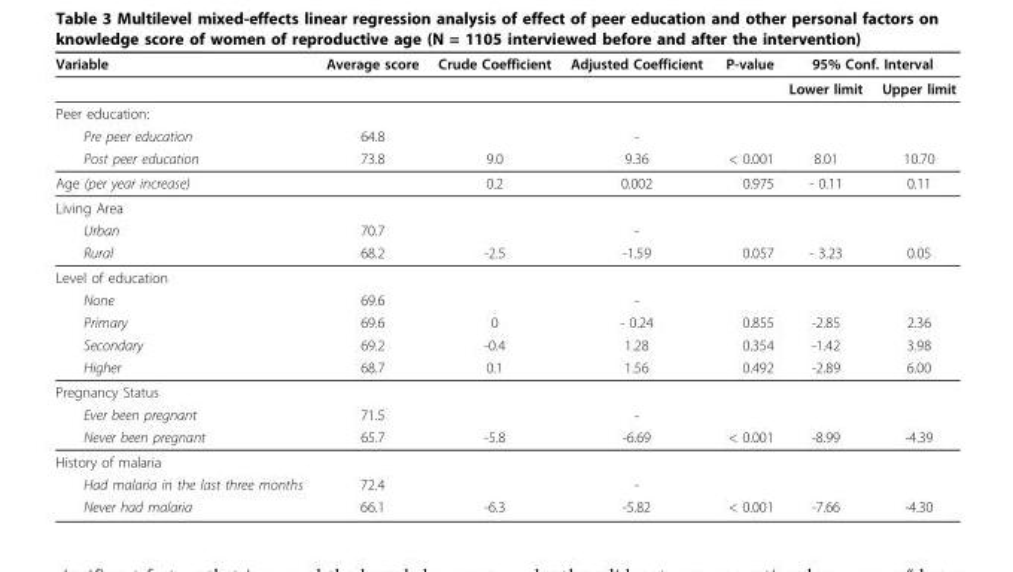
<table><thead><tr><td rowspan="2">Variable</td><td rowspan="2">Average score</td><td rowspan="2">Crude Coefficient</td><td rowspan="2">Adjusted Coefficient</td><td rowspan="2">P-value</td><td colspan="2">95% Conf. Interval</td></tr><tr><td>Lower limit</td><td>Upper limit</td></tr></thead><tbody><tr><td colspan="7">Peer education:</td></tr><tr><td>Pre peer education</td><td>64.8</td><td></td><td>-</td><td></td><td></td><td></td></tr><tr><td>Post peer education</td><td>73.8</td><td>9.0</td><td>9.36</td><td>&lt; 0.001</td><td>8.01</td><td>10.70</td></tr><tr><td>Age (per year increase)</td><td></td><td>0.2</td><td>0.002</td><td>0.975</td><td>- 0.11</td><td>0.11</td></tr><tr><td colspan="7">Living Area</td></tr><tr><td>Urban</td><td>70.7</td><td></td><td>-</td><td></td><td></td><td></td></tr><tr><td>Rural</td><td>68.2</td><td>-2.5</td><td>-1.59</td><td>0.057</td><td>- 3.23</td><td>0.05</td></tr><tr><td colspan="7">Level of education</td></tr><tr><td>None</td><td>69.6</td><td></td><td>-</td><td></td><td></td><td></td></tr><tr><td>Primary</td><td>69.6</td><td>0</td><td>- 0.24</td><td>0.855</td><td>-2.85</td><td>2.36</td></tr><tr><td>Secondary</td><td>69.2</td><td>-0.4</td><td>1.28</td><td>0.354</td><td>-1.42</td><td>3.98</td></tr><tr><td>Higher</td><td>68.7</td><td>0.1</td><td>1.56</td><td>0.492</td><td>-2.89</td><td>6.00</td></tr><tr><td colspan="7">Pregnancy Status</td></tr><tr><td>Ever been pregnant</td><td>71.5</td><td></td><td>-</td><td></td><td></td><td></td></tr><tr><td>Never been pregnant</td><td>65.7</td><td>-5.8</td><td>-6.69</td><td>&lt; 0.001</td><td>-8.99</td><td>-4.39</td></tr><tr><td colspan="7">History of malaria</td></tr><tr><td>Had malaria in the last three months</td><td>72.4</td><td></td><td>-</td><td></td><td></td><td></td></tr><tr><td>Never had malaria</td><td>66.1</td><td>-6.3</td><td>-5.82</td><td>&lt; 0.001</td><td>-7.66</td><td>-4.30</td></tr></tbody></table>